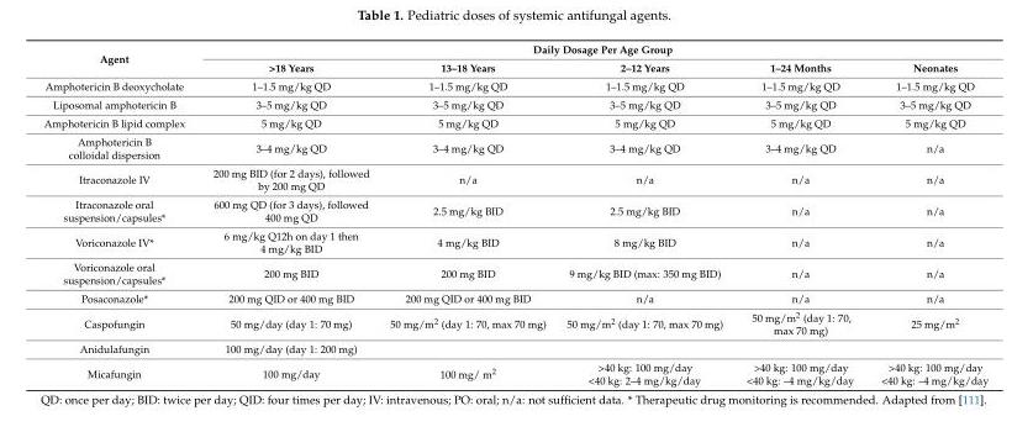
<table><thead><tr><td rowspan="2">Agent</td><td colspan="5">Daily Dosage Per Age Group</td></tr><tr><td>&gt;18 Years</td><td>13–18 Years</td><td>2–12 Years</td><td>1–24 Months</td><td>Neonates</td></tr></thead><tbody><tr><td>Amphotericin B deoxycholate</td><td>1–1.5 mg/kg QD</td><td>1–1.5 mg/kg QD</td><td>1–1.5 mg/kg QD</td><td>1–1.5 mg/kg QD</td><td>1–1.5 mg/kg QD</td></tr><tr><td>Liposomal amphotericin B</td><td>3–5 mg/kg QD</td><td>3–5 mg/kg QD</td><td>3–5 mg/kg QD</td><td>3–5 mg/kg QD</td><td>3–5 mg/kg QD</td></tr><tr><td>Amphotericin B lipid complex</td><td>5 mg/kg QD</td><td>5 mg/kg QD</td><td>5 mg/kg QD</td><td>5 mg/kg QD</td><td>5 mg/kg QD</td></tr><tr><td>Amphotericin B colloidal dispersion</td><td>3–4 mg/kg QD</td><td>3–4 mg/kg QD</td><td>3–4 mg/kg QD</td><td>3–4 mg/kg QD</td><td>n/a</td></tr><tr><td>Itraconazole IV</td><td>200 mg BID (for 2 days), followed by 200 mg QD</td><td>n/a</td><td>n/a</td><td>n/a</td><td>n/a</td></tr><tr><td>Itraconazole oral suspension/capsules*</td><td>600 mg QD (for 3 days), followed 400 mg QD</td><td>2.5 mg/kg BID</td><td>2.5 mg/kg BID</td><td>n/a</td><td>n/a</td></tr><tr><td>Voriconazole IV*</td><td>6 mg/kg Q12h on day 1 then 4 mg/kg BID</td><td>4 mg/kg BID</td><td>8 mg/kg BID</td><td>n/a</td><td>n/a</td></tr><tr><td>Voriconazole oral suspension/capsules*</td><td>200 mg BID</td><td>200 mg BID</td><td>9 mg/kg BID (max: 350 mg BID)</td><td>n/a</td><td>n/a</td></tr><tr><td>Posaconazole*</td><td>200 mg QID or 400 mg BID</td><td>200 mg QID or 400 mg BID</td><td>n/a</td><td>n/a</td><td>n/a</td></tr><tr><td>Caspofungin</td><td>50 mg/day (day 1: 70 mg)</td><td>50 mg/m<sup>2</sup> (day 1: 70, max 70 mg)</td><td>50 mg/m<sup>2</sup> (day 1: 70, max 70 mg)</td><td>50 mg/m<sup>2</sup> (day 1: 70, max 70 mg)</td><td>25 mg/m<sup>2</sup></td></tr><tr><td>Anidulafungin</td><td>100 mg/day (day 1: 200 mg)</td><td></td><td></td><td></td><td></td></tr><tr><td>Micafungin</td><td>100 mg/day</td><td>100 mg/ m<sup>2</sup></td><td>&gt;40 kg: 100 mg/day &lt;40 kg: 2–4 mg/kg/day</td><td>&gt;40 kg: 100 mg/day &lt;40 kg: –4 mg/kg/day</td><td>&gt;40 kg: 100 mg/day &lt;40 kg: –4 mg/kg/day</td></tr></tbody></table>